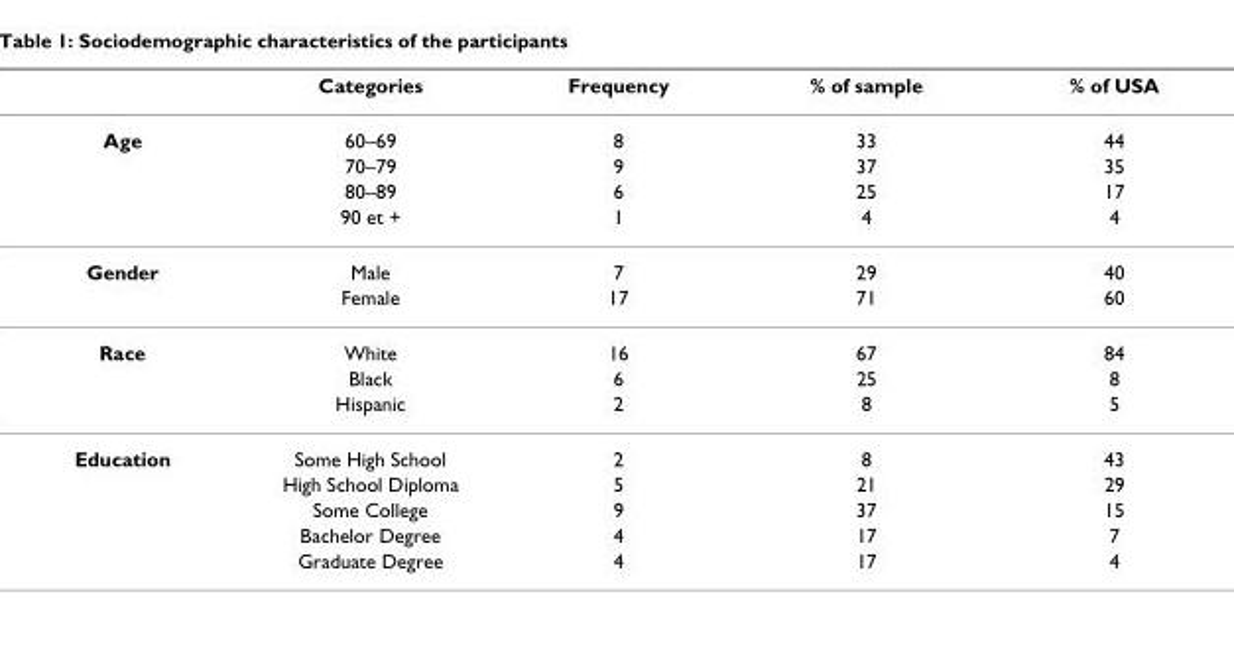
<table><thead><tr><td></td><td>Categories</td><td>Frequency</td><td>% of sample</td><td>% of USA</td></tr></thead><tbody><tr><td rowspan="4">Age</td><td>60–69</td><td>8</td><td>33</td><td>44</td></tr><tr><td>70–79</td><td>9</td><td>37</td><td>35</td></tr><tr><td>80–89</td><td>6</td><td>25</td><td>17</td></tr><tr><td>90 et +</td><td>1</td><td>4</td><td>4</td></tr><tr><td rowspan="2">Gender</td><td>Male</td><td>7</td><td>29</td><td>40</td></tr><tr><td>Female</td><td>17</td><td>71</td><td>60</td></tr><tr><td rowspan="3">Race</td><td>White</td><td>16</td><td>67</td><td>84</td></tr><tr><td>Black</td><td>6</td><td>25</td><td>8</td></tr><tr><td>Hispanic</td><td>2</td><td>8</td><td>5</td></tr><tr><td rowspan="5">Education</td><td>Some High School</td><td>2</td><td>8</td><td>43</td></tr><tr><td>High School Diploma</td><td>5</td><td>21</td><td>29</td></tr><tr><td>Some College</td><td>9</td><td>37</td><td>15</td></tr><tr><td>Bachelor Degree</td><td>4</td><td>17</td><td>7</td></tr><tr><td>Graduate Degree</td><td>4</td><td>17</td><td>4</td></tr></tbody></table>